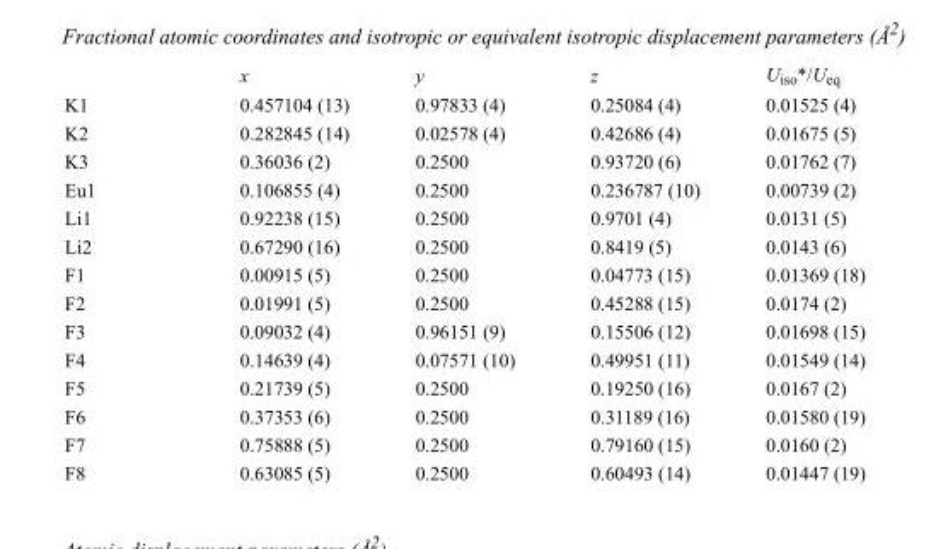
<table><thead><tr><td></td><td>x</td><td>y</td><td>z</td><td>U<sub>iso</sub>*/U<sub>eq</sub></td></tr></thead><tbody><tr><td>K1</td><td>0.457104 (13)</td><td>0.97833 (4)</td><td>0.25084 (4)</td><td>0.01525 (4)</td></tr><tr><td>K2</td><td>0.282845 (14)</td><td>0.02578 (4)</td><td>0.42686 (4)</td><td>0.01675 (5)</td></tr><tr><td>K3</td><td>0.36036 (2)</td><td>0.2500</td><td>0.93720 (6)</td><td>0.01762 (7)</td></tr><tr><td>Eu1</td><td>0.106855 (4)</td><td>0.2500</td><td>0.236787 (10)</td><td>0.00739 (2)</td></tr><tr><td>Li1</td><td>0.92238 (15)</td><td>0.2500</td><td>0.9701 (4)</td><td>0.0131 (5)</td></tr><tr><td>Li2</td><td>0.67290 (16)</td><td>0.2500</td><td>0.8419 (5)</td><td>0.0143 (6)</td></tr><tr><td>F1</td><td>0.00915 (5)</td><td>0.2500</td><td>0.04773 (15)</td><td>0.01369 (18)</td></tr><tr><td>F2</td><td>0.01991 (5)</td><td>0.2500</td><td>0.45288 (15)</td><td>0.0174 (2)</td></tr><tr><td>F3</td><td>0.09032 (4)</td><td>0.96151 (9)</td><td>0.15506 (12)</td><td>0.01698 (15)</td></tr><tr><td>F4</td><td>0.14639 (4)</td><td>0.07571 (10)</td><td>0.49951 (11)</td><td>0.01549 (14)</td></tr><tr><td>F5</td><td>0.21739 (5)</td><td>0.2500</td><td>0.19250 (16)</td><td>0.0167 (2)</td></tr><tr><td>F6</td><td>0.37353 (6)</td><td>0.2500</td><td>0.31189 (16)</td><td>0.01580 (19)</td></tr><tr><td>F7</td><td>0.75888 (5)</td><td>0.2500</td><td>0.79160 (15)</td><td>0.0160 (2)</td></tr><tr><td>F8</td><td>0.63085 (5)</td><td>0.2500</td><td>0.60493 (14)</td><td>0.01447 (19)</td></tr></tbody></table>